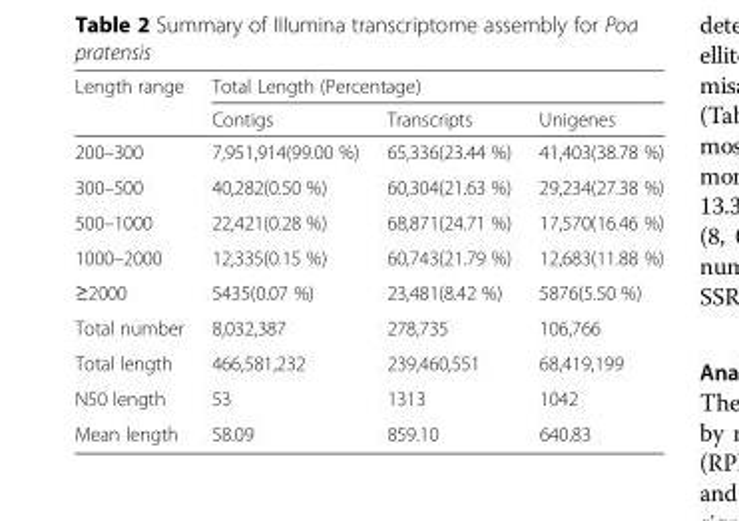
<table><thead><tr><td rowspan="2">Length range</td><td colspan="3">Total Length (Percentage)</td></tr><tr><td>Contigs</td><td>Transcripts</td><td>Unigenes</td></tr></thead><tbody><tr><td>200–300</td><td>7,951,914(99.00 %)</td><td>65,336(23.44 %)</td><td>41,403(38.78 %)</td></tr><tr><td>300–500</td><td>40,282(0.50 %)</td><td>60,304(21.63 %)</td><td>29,234(27.38 %)</td></tr><tr><td>500–1000</td><td>22,421(0.28 %)</td><td>68,871(24.71 %)</td><td>17,570(16.46 %)</td></tr><tr><td>1000–2000</td><td>12,335(0.15 %)</td><td>60,743(21.79 %)</td><td>12,683(11.88 %)</td></tr><tr><td>≥2000</td><td>5435(0.07 %)</td><td>23,481(8.42 %)</td><td>5876(5.50 %)</td></tr><tr><td>Total number</td><td>8,032,387</td><td>278,735</td><td>106,766</td></tr><tr><td>Total length</td><td>466,581,232</td><td>239,460,551</td><td>68,419,199</td></tr><tr><td>N50 length</td><td>53</td><td>1313</td><td>1042</td></tr><tr><td>Mean length</td><td>58.09</td><td>859.10</td><td>640.83</td></tr></tbody></table>